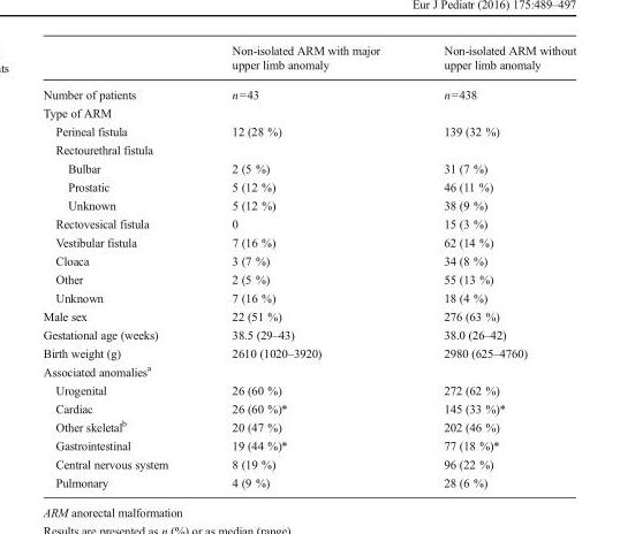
<table><thead><tr><td></td><td>Non-isolated ARM with major upper limb anomaly</td><td>Non-isolated ARM without upper limb anomaly</td></tr></thead><tbody><tr><td>Number of patients</td><td>n=43</td><td>n=438</td></tr><tr><td colspan="3">Type of ARM</td></tr><tr><td>Perineal fistula</td><td>12 (28 %)</td><td>139 (32 %)</td></tr><tr><td colspan="3">Rectourethral fistula</td></tr><tr><td>Bulbar</td><td>2 (5 %)</td><td>31 (7 %)</td></tr><tr><td>Prostatic</td><td>5 (12 %)</td><td>46 (11 %)</td></tr><tr><td>Unknown</td><td>5 (12 %)</td><td>38 (9 %)</td></tr><tr><td>Rectovesical fistula</td><td>0</td><td>15 (3 %)</td></tr><tr><td>Vestibular fistula</td><td>7 (16 %)</td><td>62 (14 %)</td></tr><tr><td>Cloaca</td><td>3 (7 %)</td><td>34 (8 %)</td></tr><tr><td>Other</td><td>2 (5 %)</td><td>55 (13 %)</td></tr><tr><td>Unknown</td><td>7 (16 %)</td><td>18 (4 %)</td></tr><tr><td>Male sex</td><td>22 (51 %)</td><td>276 (63 %)</td></tr><tr><td>Gestational age (weeks)</td><td>38.5 (29–43)</td><td>38.0 (26–42)</td></tr><tr><td>Birth weight (g)</td><td>2610 (1020–3920)</td><td>2980 (625–4760)</td></tr><tr><td colspan="3">Associated anomalies<sup>a</sup></td></tr><tr><td>Urogenital</td><td>26 (60 %)</td><td>272 (62 %)</td></tr><tr><td>Cardiac</td><td>26 (60 %)*</td><td>145 (33 %)*</td></tr><tr><td>Other skeletal<sup>b</sup></td><td>20 (47 %)</td><td>202 (46 %)</td></tr><tr><td>Gastrointestinal</td><td>19 (44 %)*</td><td>77 (18 %)*</td></tr><tr><td>Central nervous system</td><td>8 (19 %)</td><td>96 (22 %)</td></tr><tr><td>Pulmonary</td><td>4 (9 %)</td><td>28 (6 %)</td></tr></tbody></table>